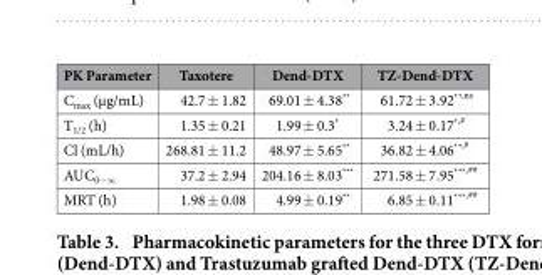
<table><thead><tr><td>PK Parameter</td><td>Taxotere</td><td>Dend-DTX</td><td>TZ-Dend-DTX</td></tr></thead><tbody><tr><td>C<sub>max</sub> (μg/mL)</td><td>42.7 ± 1.82</td><td>69.01 ± 4.38**</td><td>61.72 ± 3.92<sup>**,ns</sup></td></tr><tr><td>T<sub>1/2</sub> (h)</td><td>1.35 ± 0.21</td><td>1.99 ± 0.3*</td><td>3.24 ± 0.17<sup>*,#</sup></td></tr><tr><td>Cl (mL/h)</td><td>268.81 ± 11.2</td><td>48.97 ± 5.65**</td><td>36.82 ± 4.06<sup>**,#</sup></td></tr><tr><td>AUC<sub>0−∞</sub></td><td>37.2 ± 2.94</td><td>204.16 ± 8.03***</td><td>271.58 ± 7.95<sup>***,##</sup></td></tr><tr><td>MRT (h)</td><td>1.98 ± 0.08</td><td>4.99 ± 0.19**</td><td>6.85 ± 0.11<sup>***,##</sup></td></tr></tbody></table>